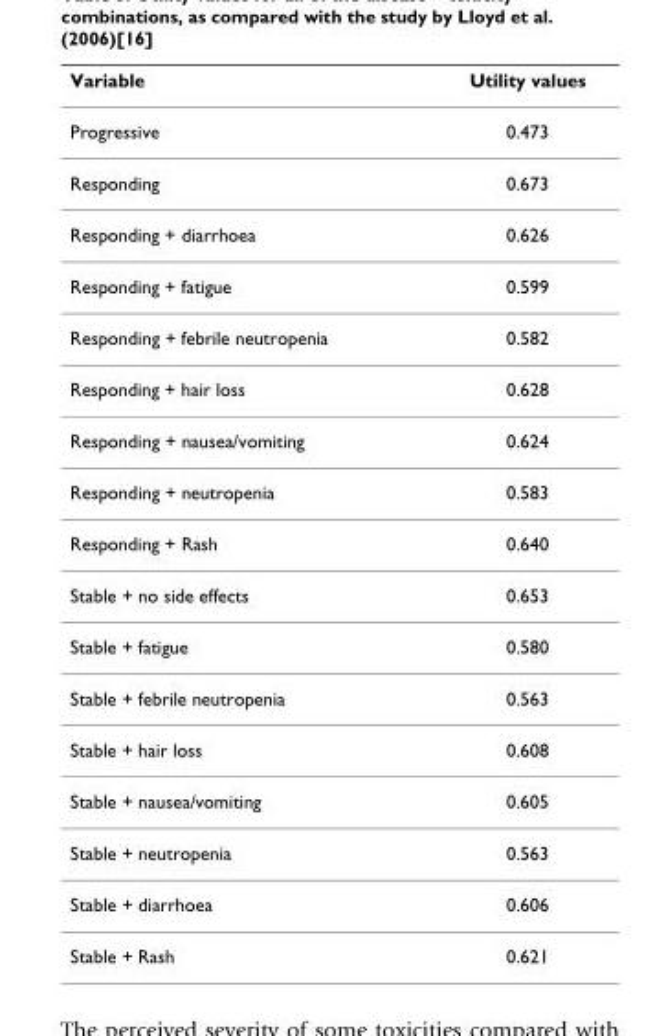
<table><thead><tr><td>Variable</td><td>Utility values</td></tr></thead><tbody><tr><td>Progressive</td><td>0.473</td></tr><tr><td>Responding</td><td>0.673</td></tr><tr><td>Responding + diarrhoea</td><td>0.626</td></tr><tr><td>Responding + fatigue</td><td>0.599</td></tr><tr><td>Responding + febrile neutropenia</td><td>0.582</td></tr><tr><td>Responding + hair loss</td><td>0.628</td></tr><tr><td>Responding + nausea/vomiting</td><td>0.624</td></tr><tr><td>Responding + neutropenia</td><td>0.583</td></tr><tr><td>Responding + Rash</td><td>0.640</td></tr><tr><td>Stable + no side effects</td><td>0.653</td></tr><tr><td>Stable + fatigue</td><td>0.580</td></tr><tr><td>Stable + febrile neutropenia</td><td>0.563</td></tr><tr><td>Stable + hair loss</td><td>0.608</td></tr><tr><td>Stable + nausea/vomiting</td><td>0.605</td></tr><tr><td>Stable + neutropenia</td><td>0.563</td></tr><tr><td>Stable + diarrhoea</td><td>0.606</td></tr><tr><td>Stable + Rash</td><td>0.621</td></tr></tbody></table>